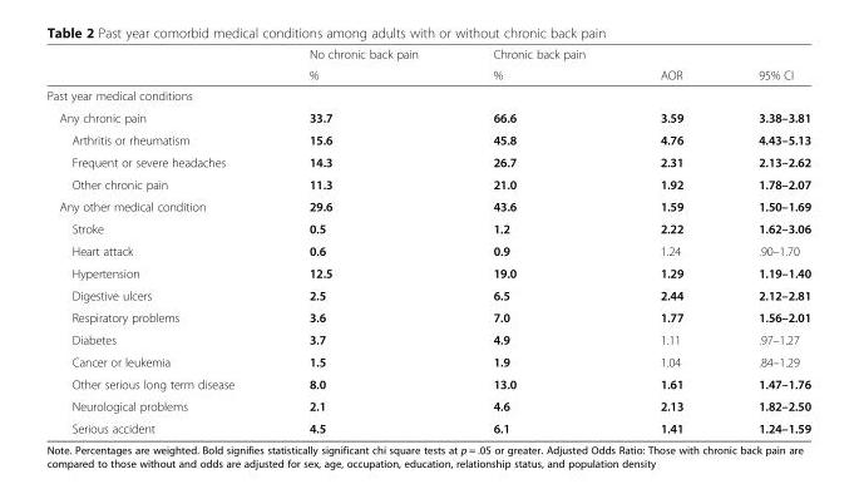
<table><thead><tr><td rowspan="2"></td><td rowspan="2">No chronic back pain %</td><td rowspan="2">Chronic back pain %</td><td rowspan="2">AOR</td><td rowspan="2">95% CI</td></tr><tr></tr></thead><tbody><tr><td colspan="5">Past year medical conditions</td></tr><tr><td>Any chronic pain</td><td>33.7</td><td>66.6</td><td>3.59</td><td>3.38–3.81</td></tr><tr><td>Arthritis or rheumatism</td><td>15.6</td><td>45.8</td><td>4.76</td><td>4.43–5.13</td></tr><tr><td>Frequent or severe headaches</td><td>14.3</td><td>26.7</td><td>2.31</td><td>2.13–2.62</td></tr><tr><td>Other chronic pain</td><td>11.3</td><td>21.0</td><td>1.92</td><td>1.78–2.07</td></tr><tr><td>Any other medical condition</td><td>29.6</td><td>43.6</td><td>1.59</td><td>1.50–1.69</td></tr><tr><td>Stroke</td><td>0.5</td><td>1.2</td><td>2.22</td><td>1.62–3.06</td></tr><tr><td>Heart attack</td><td>0.6</td><td>0.9</td><td>1.24</td><td>.90–1.70</td></tr><tr><td>Hypertension</td><td>12.5</td><td>19.0</td><td>1.29</td><td>1.19–1.40</td></tr><tr><td>Digestive ulcers</td><td>2.5</td><td>6.5</td><td>2.44</td><td>2.12–2.81</td></tr><tr><td>Respiratory problems</td><td>3.6</td><td>7.0</td><td>1.77</td><td>1.56–2.01</td></tr><tr><td>Diabetes</td><td>3.7</td><td>4.9</td><td>1.11</td><td>.97–1.27</td></tr><tr><td>Cancer or leukemia</td><td>1.5</td><td>1.9</td><td>1.04</td><td>.84–1.29</td></tr><tr><td>Other serious long term disease</td><td>8.0</td><td>13.0</td><td>1.61</td><td>1.47–1.76</td></tr><tr><td>Neurological problems</td><td>2.1</td><td>4.6</td><td>2.13</td><td>1.82–2.50</td></tr><tr><td>Serious accident</td><td>4.5</td><td>6.1</td><td>1.41</td><td>1.24–1.59</td></tr></tbody></table>